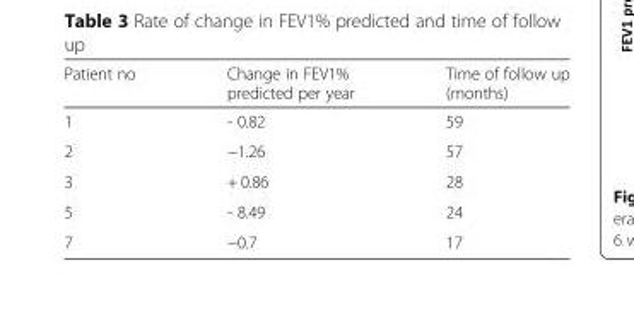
<table><thead><tr><td>Patient no</td><td>Change in FEV1% predicted per year</td><td>Time of follow up (months)</td></tr></thead><tbody><tr><td>1</td><td>- 0.82</td><td>59</td></tr><tr><td>2</td><td>−1.26</td><td>57</td></tr><tr><td>3</td><td>+ 0.86</td><td>28</td></tr><tr><td>5</td><td>- 8.49</td><td>24</td></tr><tr><td>7</td><td>−0.7</td><td>17</td></tr></tbody></table>